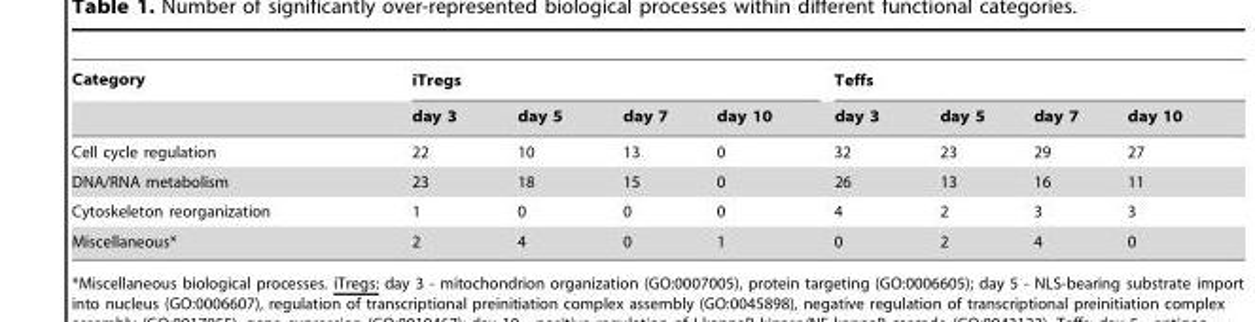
<table><thead><tr><td rowspan="2">Category</td><td colspan="4">iTregs</td><td colspan="4">Teffs</td></tr><tr><td>day 3</td><td>day 5</td><td>day 7</td><td>day 10</td><td>day 3</td><td>day 5</td><td>day 7</td><td>day 10</td></tr></thead><tbody><tr><td>Cell cycle regulation</td><td>22</td><td>10</td><td>13</td><td>0</td><td>32</td><td>23</td><td>29</td><td>27</td></tr><tr><td>DNA/RNA metabolism</td><td>23</td><td>18</td><td>15</td><td>0</td><td>26</td><td>13</td><td>16</td><td>11</td></tr><tr><td>Cytoskeleton reorganization</td><td>1</td><td>0</td><td>0</td><td>0</td><td>4</td><td>2</td><td>3</td><td>3</td></tr><tr><td>Miscellaneous*</td><td>2</td><td>4</td><td>0</td><td>1</td><td>0</td><td>2</td><td>4</td><td>0</td></tr></tbody></table>